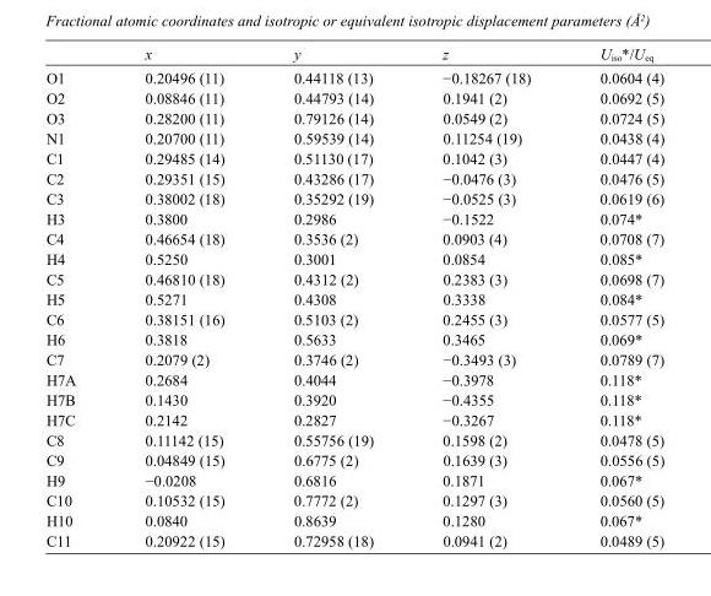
<table><thead><tr><td></td><td>x</td><td>y</td><td>z</td><td>U<sub>iso</sub>*/U<sub>eq</sub></td></tr></thead><tbody><tr><td>O1</td><td>0.20496 (11)</td><td>0.44118 (13)</td><td>−0.18267 (18)</td><td>0.0604 (4)</td></tr><tr><td>O2</td><td>0.08846 (11)</td><td>0.44793 (14)</td><td>0.1941 (2)</td><td>0.0692 (5)</td></tr><tr><td>O3</td><td>0.28200 (11)</td><td>0.79126 (14)</td><td>0.0549 (2)</td><td>0.0724 (5)</td></tr><tr><td>N1</td><td>0.20700 (11)</td><td>0.59539 (14)</td><td>0.11254 (19)</td><td>0.0438 (4)</td></tr><tr><td>C1</td><td>0.29485 (14)</td><td>0.51130 (17)</td><td>0.1042 (3)</td><td>0.0447 (4)</td></tr><tr><td>C2</td><td>0.29351 (15)</td><td>0.43286 (17)</td><td>−0.0476 (3)</td><td>0.0476 (5)</td></tr><tr><td>C3</td><td>0.38002 (18)</td><td>0.35292 (19)</td><td>−0.0525 (3)</td><td>0.0619 (6)</td></tr><tr><td>H3</td><td>0.3800</td><td>0.2986</td><td>−0.1522</td><td>0.074*</td></tr><tr><td>C4</td><td>0.46654 (18)</td><td>0.3536 (2)</td><td>0.0903 (4)</td><td>0.0708 (7)</td></tr><tr><td>H4</td><td>0.5250</td><td>0.3001</td><td>0.0854</td><td>0.085*</td></tr><tr><td>C5</td><td>0.46810 (18)</td><td>0.4312 (2)</td><td>0.2383 (3)</td><td>0.0698 (7)</td></tr><tr><td>H5</td><td>0.5271</td><td>0.4308</td><td>0.3338</td><td>0.084*</td></tr><tr><td>C6</td><td>0.38151 (16)</td><td>0.5103 (2)</td><td>0.2455 (3)</td><td>0.0577 (5)</td></tr><tr><td>H6</td><td>0.3818</td><td>0.5633</td><td>0.3465</td><td>0.069*</td></tr><tr><td>C7</td><td>0.2079 (2)</td><td>0.3746 (2)</td><td>−0.3493 (3)</td><td>0.0789 (7)</td></tr><tr><td>H7A</td><td>0.2684</td><td>0.4044</td><td>−0.3978</td><td>0.118*</td></tr><tr><td>H7B</td><td>0.1430</td><td>0.3920</td><td>−0.4355</td><td>0.118*</td></tr><tr><td>H7C</td><td>0.2142</td><td>0.2827</td><td>−0.3267</td><td>0.118*</td></tr><tr><td>C8</td><td>0.11142 (15)</td><td>0.55756 (19)</td><td>0.1598 (2)</td><td>0.0478 (5)</td></tr><tr><td>C9</td><td>0.04849 (15)</td><td>0.6775 (2)</td><td>0.1639 (3)</td><td>0.0556 (5)</td></tr><tr><td>H9</td><td>−0.0208</td><td>0.6816</td><td>0.1871</td><td>0.067*</td></tr><tr><td>C10</td><td>0.10532 (15)</td><td>0.7772 (2)</td><td>0.1297 (3)</td><td>0.0560 (5)</td></tr><tr><td>H10</td><td>0.0840</td><td>0.8639</td><td>0.1280</td><td>0.067*</td></tr><tr><td>C11</td><td>0.20922 (15)</td><td>0.72958 (18)</td><td>0.0941 (2)</td><td>0.0489 (5)</td></tr></tbody></table>